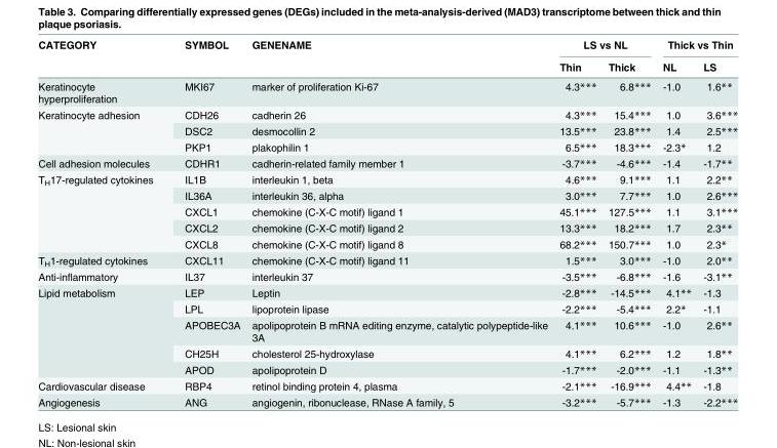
<table><thead><tr><td rowspan="2">CATEGORY</td><td rowspan="2">SYMBOL</td><td rowspan="2">GENENAME</td><td colspan="2">LS vs NL</td><td colspan="2">Thick vs Thin</td></tr><tr><td>Thin</td><td>Thick</td><td>NL</td><td>LS</td></tr></thead><tbody><tr><td>Keratinocyte hyperproliferation</td><td>MKI67</td><td>marker of proliferation Ki-67</td><td>4.3***</td><td>6.8***</td><td>-1.0</td><td>1.6**</td></tr><tr><td rowspan="3">Keratinocyte adhesion</td><td>CDH26</td><td>cadherin 26</td><td>4.3***</td><td>15.4***</td><td>1.0</td><td>3.6***</td></tr><tr><td>DSC2</td><td>desmocollin 2</td><td>13.5***</td><td>23.8***</td><td>1.4</td><td>2.5***</td></tr><tr><td>PKP1</td><td>plakophilin 1</td><td>6.5***</td><td>18.3***</td><td>-2.3*</td><td>1.2</td></tr><tr><td>Cell adhesion molecules</td><td>CDHR1</td><td>cadherin-related family member 1</td><td>-3.7***</td><td>-4.6***</td><td>-1.4</td><td>-1.7**</td></tr><tr><td rowspan="5">T<sub>H</sub>17-regulated cytokines</td><td>IL1B</td><td>interleukin 1, beta</td><td>4.6***</td><td>9.1***</td><td>1.1</td><td>2.2**</td></tr><tr><td>IL36A</td><td>interleukin 36, alpha</td><td>3.0***</td><td>7.7***</td><td>1.0</td><td>2.6***</td></tr><tr><td>CXCL1</td><td>chemokine (C-X-C motif) ligand 1</td><td>45.1***</td><td>127.5***</td><td>1.1</td><td>3.1***</td></tr><tr><td>CXCL2</td><td>chemokine (C-X-C motif) ligand 2</td><td>13.3***</td><td>18.2***</td><td>1.7</td><td>2.3**</td></tr><tr><td>CXCL8</td><td>chemokine (C-X-C motif) ligand 8</td><td>68.2***</td><td>150.7***</td><td>1.0</td><td>2.3*</td></tr><tr><td>T<sub>H</sub>1-regulated cytokines</td><td>CXCL11</td><td>chemokine (C-X-C motif) ligand 11</td><td>1.5***</td><td>3.0***</td><td>-1.0</td><td>2.0**</td></tr><tr><td>Anti-inflammatory</td><td>IL37</td><td>interleukin 37</td><td>-3.5***</td><td>-6.8***</td><td>-1.6</td><td>-3.1**</td></tr><tr><td rowspan="5">Lipid metabolism</td><td>LEP</td><td>Leptin</td><td>-2.8***</td><td>-14.5***</td><td>4.1**</td><td>-1.3</td></tr><tr><td>LPL</td><td>lipoprotein lipase</td><td>-2.2***</td><td>-5.4***</td><td>2.2*</td><td>-1.1</td></tr><tr><td>APOBEC3A</td><td>apolipoprotein B mRNA editing enzyme, catalytic polypeptide-like 3A</td><td>4.1***</td><td>10.6***</td><td>-1.0</td><td>2.6**</td></tr><tr><td>CH25H</td><td>cholesterol 25-hydroxylase</td><td>4.1***</td><td>6.2***</td><td>1.2</td><td>1.8**</td></tr><tr><td>APOD</td><td>apolipoprotein D</td><td>-1.7***</td><td>-2.0***</td><td>-1.1</td><td>-1.3**</td></tr><tr><td>Cardiovascular disease</td><td>RBP4</td><td>retinol binding protein 4, plasma</td><td>-2.1***</td><td>-16.9***</td><td>4.4**</td><td>-1.8</td></tr><tr><td>Angiogenesis</td><td>ANG</td><td>angiogenin, ribonuclease, RNase A family, 5</td><td>-3.2***</td><td>-5.7***</td><td>-1.3</td><td>-2.2***</td></tr></tbody></table>